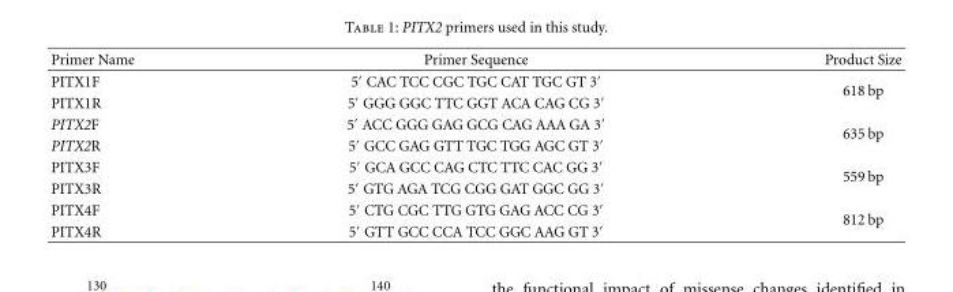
<table><thead><tr><td>Primer Name</td><td>Primer Sequence</td><td>Product Size</td></tr></thead><tbody><tr><td>PITX1F</td><td>5′ CAC TCC CGC TGC CAT TGC GT 3′</td><td rowspan="2">618 bp</td></tr><tr><td>PITX1R</td><td>5′ GGG GGC TTC GGT ACA CAG CG 3′</td></tr><tr><td>PITX2F</td><td>5′ ACC GGG GAG GCG CAG AAA GA 3′</td><td rowspan="2">635 bp</td></tr><tr><td>PITX2R</td><td>5′ GCC GAG GTT TGC TGG AGC GT 3′</td></tr><tr><td>PITX3F</td><td>5′ GCA GCC CAG CTC TTC CAC GG 3′</td><td rowspan="2">559 bp</td></tr><tr><td>PITX3R</td><td>5′ GTG AGA TCG CGG GAT GGC GG 3′</td></tr><tr><td>PITX4F</td><td>5′ CTG CGC TTG GTG GAG ACC CG 3′</td><td rowspan="2">812 bp</td></tr><tr><td>PITX4R</td><td>5′ GTT GCC CCA TCC GGC AAG GT 3′</td></tr></tbody></table>